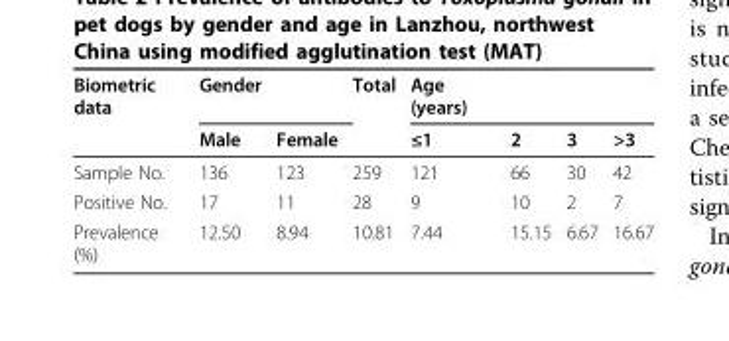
<table><thead><tr><td rowspan="2">Biometric data</td><td rowspan="2">Gender Male</td><td rowspan="2">Female</td><td rowspan="2">Total</td><td rowspan="2">Age (years) ≤1</td><td rowspan="2">2</td><td rowspan="2">3</td><td rowspan="2">&gt;3</td></tr><tr></tr></thead><tbody><tr><td>Sample No.</td><td>136</td><td>123</td><td>259</td><td>121</td><td>66</td><td>30</td><td>42</td></tr><tr><td>Positive No.</td><td>17</td><td>11</td><td>28</td><td>9</td><td>10</td><td>2</td><td>7</td></tr><tr><td>Prevalence (%)</td><td>12.50</td><td>8.94</td><td>10.81</td><td>7.44</td><td>15.15</td><td>6.67</td><td>16.67</td></tr></tbody></table>